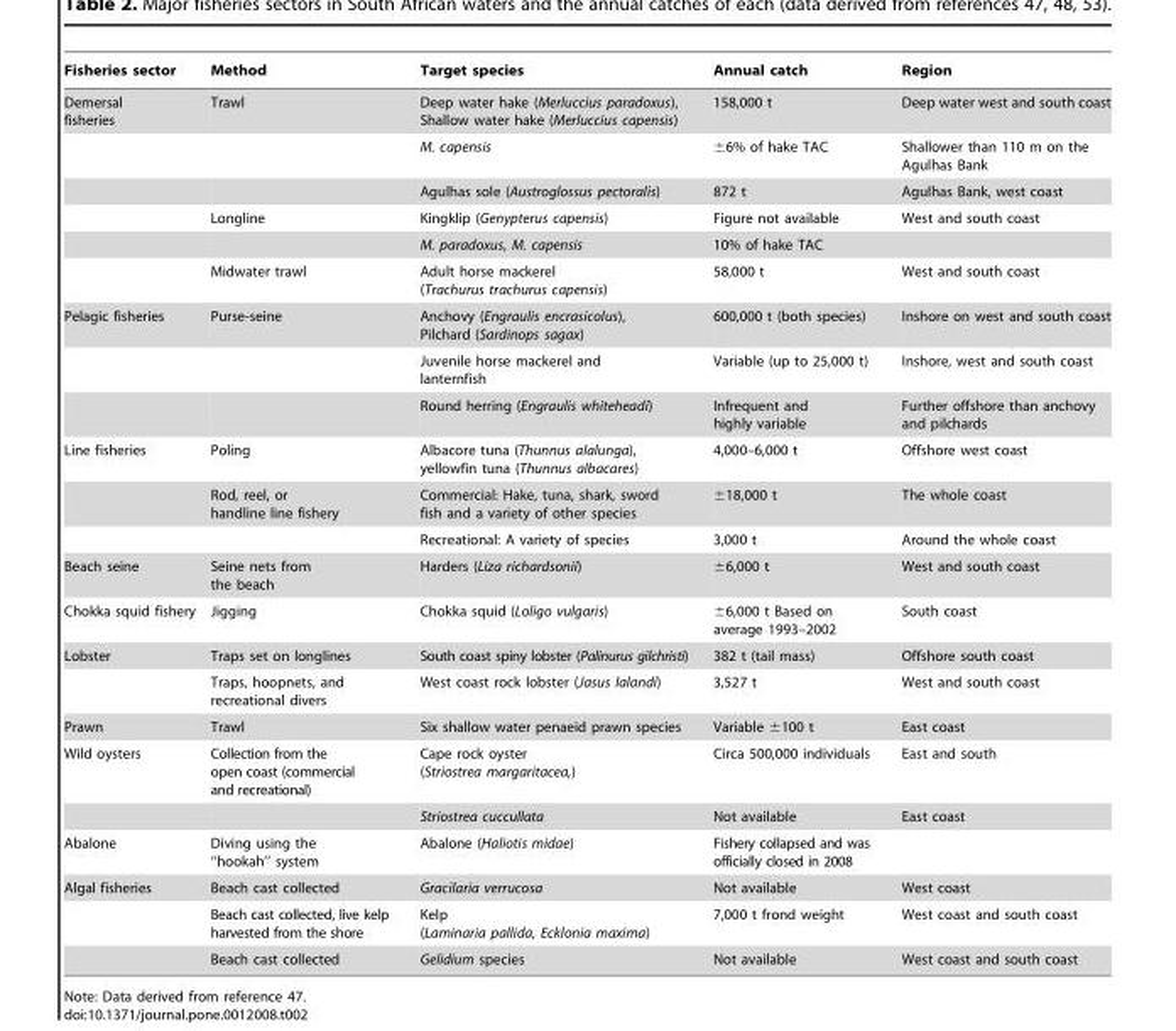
<table><thead><tr><td>Fisheries sector</td><td>Method</td><td>Target species</td><td>Annual catch</td><td>Region</td></tr></thead><tbody><tr><td rowspan="6">Demersal fisheries</td><td>Trawl</td><td>Deep water hake (Merluccius paradoxus), Shallow water hake (Merluccius capensis)</td><td>158,000 t</td><td>Deep water west and south coast</td></tr><tr><td></td><td>M. capensis</td><td>±6% of hake TAC</td><td>Shallower than 110 m on the Agulhas Bank</td></tr><tr><td></td><td>Agulhas sole (Austroglossus pectoralis)</td><td>872 t</td><td>Agulhas Bank, west coast</td></tr><tr><td>Longline</td><td>Kingklip (Genypterus capensis)</td><td>Figure not available</td><td>West and south coast</td></tr><tr><td></td><td>M. paradoxus, M. capensis</td><td>10% of hake TAC</td><td></td></tr><tr><td>Midwater trawl</td><td>Adult horse mackerel (Trachurus trachurus capensis)</td><td>58,000 t</td><td>West and south coast</td></tr><tr><td rowspan="3">Pelagic fisheries</td><td>Purse-seine</td><td>Anchovy (Engraulis encrasicolus), Pilchard (Sardinops sagax)</td><td>600,000 t (both species)</td><td>Inshore on west and south coast</td></tr><tr><td></td><td>Juvenile horse mackerel and lanternfish</td><td>Variable (up to 25,000 t)</td><td>Inshore, west and south coast</td></tr><tr><td></td><td>Round herring (Engraulis whiteheadi)</td><td>Infrequent and highly variable</td><td>Further offshore than anchovy and pilchards</td></tr><tr><td rowspan="3">Line fisheries</td><td>Poling</td><td>Albacore tuna (Thunnus alalunga), yellowfin tuna (Thunnus albacares)</td><td>4,000–6,000 t</td><td>Offshore west coast</td></tr><tr><td>Rod, reel, or handline line fishery</td><td>Commercial: Hake, tuna, shark, sword fish and a variety of other species</td><td>±18,000 t</td><td>The whole coast</td></tr><tr><td></td><td>Recreational: A variety of species</td><td>3,000 t</td><td>Around the whole coast</td></tr><tr><td>Beach seine</td><td>Seine nets from the beach</td><td>Harders (Liza richardsonii)</td><td>±6,000 t</td><td>West and south coast</td></tr><tr><td>Chokka squid fishery</td><td>Jigging</td><td>Chokka squid (Loligo vulgaris)</td><td>±6,000 t Based on average 1993–2002</td><td>South coast</td></tr><tr><td rowspan="2">Lobster</td><td>Traps set on longlines</td><td>South coast spiny lobster (Palinurus gilchristi)</td><td>382 t (tail mass)</td><td>Offshore south coast</td></tr><tr><td>Traps, hoopnets, and recreational divers</td><td>West coast rock lobster (Jasus lalandi)</td><td>3,527 t</td><td>West and south coast</td></tr><tr><td>Prawn</td><td>Trawl</td><td>Six shallow water penaeid prawn species</td><td>Variable ±100 t</td><td>East coast</td></tr><tr><td rowspan="2">Wild oysters</td><td>Collection from the open coast (commercial and recreational)</td><td>Cape rock oyster (Striostrea margaritacea,)</td><td>Circa 500,000 individuals</td><td>East and south</td></tr><tr><td></td><td>Striostrea cuccullata</td><td>Not available</td><td>East coast</td></tr><tr><td>Abalone</td><td>Diving using the ‘‘hookah’’ system</td><td>Abalone (Haliotis midae)</td><td>Fishery collapsed and was officially closed in 2008</td><td></td></tr><tr><td rowspan="3">Algal fisheries</td><td>Beach cast collected</td><td>Gracilaria verrucosa</td><td>Not available</td><td>West coast</td></tr><tr><td>Beach cast collected, live kelp harvested from the shore</td><td>Kelp (Laminaria pallida, Ecklonia maxima)</td><td>7,000 t frond weight</td><td>West coast and south coast</td></tr><tr><td>Beach cast collected</td><td>Gelidium species</td><td>Not available</td><td>West coast and south coast</td></tr></tbody></table>